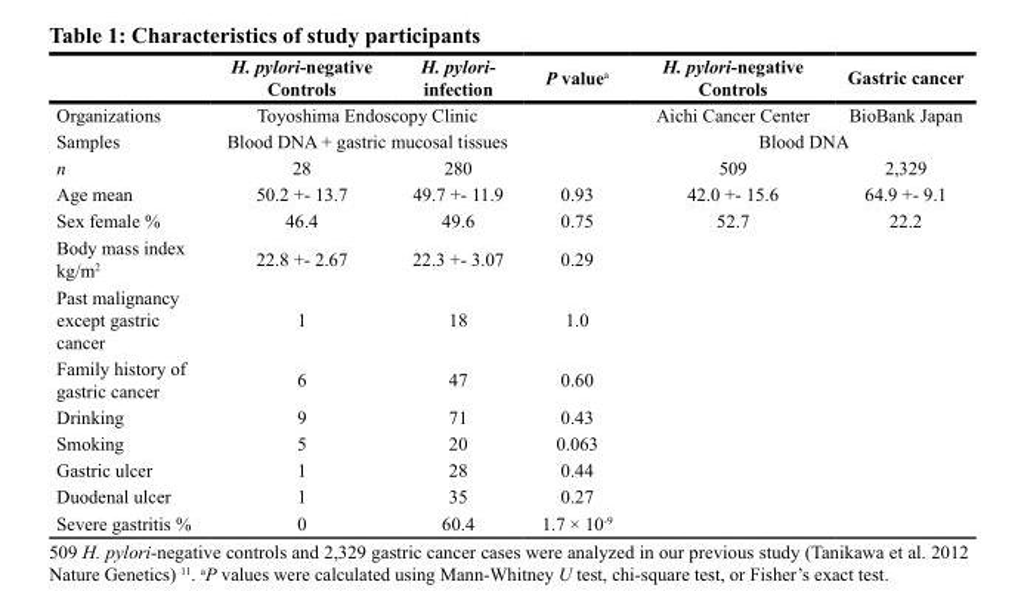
<table><thead><tr><td></td><td>H. pylori-negative Controls</td><td>H. pylori- infection</td><td>P value<sup>a</sup></td><td>H. pylori-negative Controls</td><td>Gastric cancer</td></tr></thead><tbody><tr><td>Organizations</td><td colspan="2">Toyoshima Endoscopy Clinic</td><td></td><td>Aichi Cancer Center</td><td>BioBank Japan</td></tr><tr><td>Samples</td><td colspan="2">Blood DNA + gastric mucosal tissues</td><td></td><td colspan="2">Blood DNA</td></tr><tr><td>n</td><td>28</td><td>280</td><td></td><td>509</td><td>2,329</td></tr><tr><td>Age mean</td><td>50.2 +- 13.7</td><td>49.7 +- 11.9</td><td>0.93</td><td>42.0 +- 15.6</td><td>64.9 +- 9.1</td></tr><tr><td>Sex female %</td><td>46.4</td><td>49.6</td><td>0.75</td><td>52.7</td><td>22.2</td></tr><tr><td>Body mass index kg/m<sup>2</sup></td><td>22.8 +- 2.67</td><td>22.3 +- 3.07</td><td>0.29</td><td></td><td></td></tr><tr><td>Past malignancy except gastric cancer</td><td>1</td><td>18</td><td>1.0</td><td></td><td></td></tr><tr><td>Family history of gastric cancer</td><td>6</td><td>47</td><td>0.60</td><td></td><td></td></tr><tr><td>Drinking</td><td>9</td><td>71</td><td>0.43</td><td></td><td></td></tr><tr><td>Smoking</td><td>5</td><td>20</td><td>0.063</td><td></td><td></td></tr><tr><td>Gastric ulcer</td><td>1</td><td>28</td><td>0.44</td><td></td><td></td></tr><tr><td>Duodenal ulcer</td><td>1</td><td>35</td><td>0.27</td><td></td><td></td></tr><tr><td>Severe gastritis %</td><td>0</td><td>60.4</td><td>1.7 × 10<sup>-9</sup></td><td></td><td></td></tr></tbody></table>